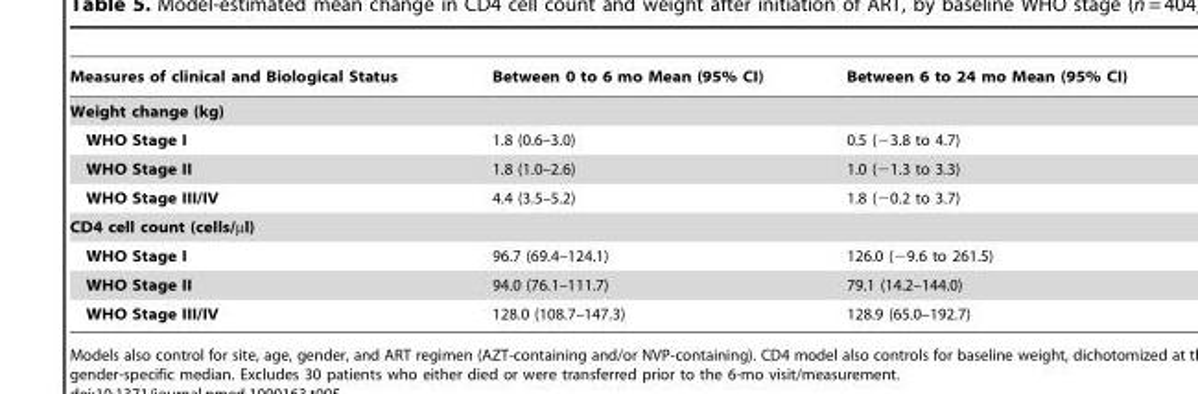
<table><thead><tr><td>Measures of clinical and Biological Status</td><td>Between 0 to 6 mo Mean (95% CI)</td><td>Between 6 to 24 mo Mean (95% CI)</td></tr></thead><tbody><tr><td colspan="3">Weight change (kg)</td></tr><tr><td>WHO Stage I</td><td>1.8 (0.6–3.0)</td><td>0.5 (−3.8 to 4.7)</td></tr><tr><td>WHO Stage II</td><td>1.8 (1.0–2.6)</td><td>1.0 (−1.3 to 3.3)</td></tr><tr><td>WHO Stage III/IV</td><td>4.4 (3.5–5.2)</td><td>1.8 (−0.2 to 3.7)</td></tr><tr><td colspan="3">CD4 cell count (cells/µl)</td></tr><tr><td>WHO Stage I</td><td>96.7 (69.4–124.1)</td><td>126.0 (−9.6 to 261.5)</td></tr><tr><td>WHO Stage II</td><td>94.0 (76.1–111.7)</td><td>79.1 (14.2–144.0)</td></tr><tr><td>WHO Stage III/IV</td><td>128.0 (108.7–147.3)</td><td>128.9 (65.0–192.7)</td></tr></tbody></table>